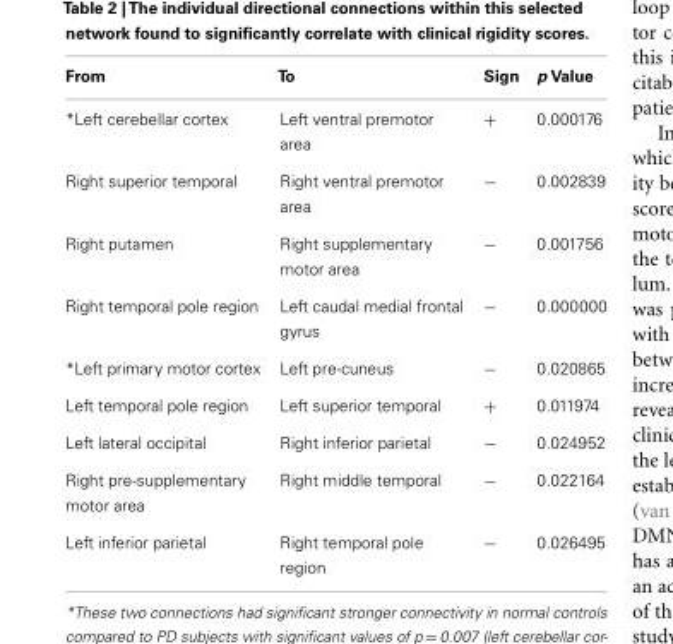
<table><thead><tr><td>From</td><td>To</td><td>Sign</td><td>p Value</td></tr></thead><tbody><tr><td>*Left cerebellar cortex</td><td>Left ventral premotor area</td><td>+</td><td>0.000176</td></tr><tr><td>Right superior temporal</td><td>Right ventral premotor area</td><td>−</td><td>0.002839</td></tr><tr><td>Right putamen</td><td>Right supplementary motor area</td><td>−</td><td>0.001756</td></tr><tr><td>Right temporal pole region</td><td>Left caudal medial frontal gyrus</td><td>−</td><td>0.000000</td></tr><tr><td>*Left primary motor cortex</td><td>Left pre-cuneus</td><td>−</td><td>0.020865</td></tr><tr><td>Left temporal pole region</td><td>Left superior temporal</td><td>+</td><td>0.011974</td></tr><tr><td>Left lateral occipital</td><td>Right inferior parietal</td><td>−</td><td>0.024952</td></tr><tr><td>Right pre-supplementary motor area</td><td>Right middle temporal</td><td>−</td><td>0.022164</td></tr><tr><td>Left inferior parietal</td><td>Right temporal pole region</td><td>−</td><td>0.026495</td></tr></tbody></table>